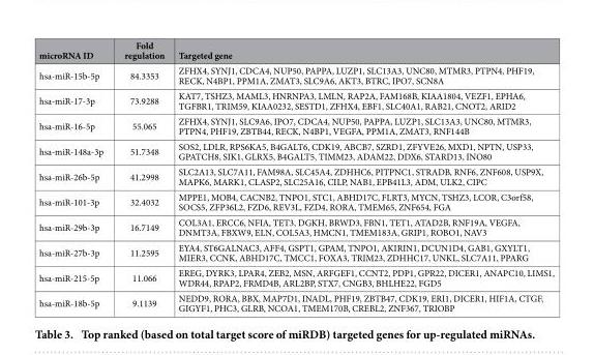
<table><thead><tr><td>microRNA ID</td><td>Fold regulation</td><td>Targeted gene</td></tr></thead><tbody><tr><td>hsa-miR-15b-5p</td><td>84.3353</td><td>ZFHX4, SYNJ1, CDCA4, NUP50, PAPPA, LUZP1, SLC13A3, UNC80, MTMR3, PTPN4, PHF19, RECK, N4BP1, PPM1A, ZMAT3, SLC9A6, AKT3, BTRC, IPO7, SCN8A</td></tr><tr><td>hsa-miR-17-3p</td><td>73.9288</td><td>KAT7, TSHZ3, MAML3, HNRNPA3, LMLN, RAP2A, FAM168B, KIAA1804, VEZF1, EPHA6, TGFBR1, TRIM59, KIAA0232, SESTD1, ZFHX4, EBF1, SLC40A1, RAB21, CNOT2, ARID2</td></tr><tr><td>hsa-miR-16-5p</td><td>55.065</td><td>ZFHX4, SYNJ1, SLC9A6, IPO7, CDCA4, NUP50, PAPPA, LUZP1, SLC13A3, UNC80, MTMR3, PTPN4, PHF19, ZBTB44, RECK, N4BP1, VEGFA, PPM1A, ZMAT3, RNF144B</td></tr><tr><td>hsa-miR-148a-3p</td><td>51.7348</td><td>SOS2, LDLR, RPS6KA5, B4GALT6, CDK19, ABCB7, SZRD1, ZFYVE26, MXD1, NPTN, USP33, GPATCH8, SIK1, GLRX5, B4GALT5, TIMM23, ADAM22, DDX6, STARD13, INO80</td></tr><tr><td>hsa-miR-26b-5p</td><td>41.2998</td><td>SLC2A13, SLC7A11, FAM98A, SLC45A4, ZDHHC6, PITPNC1, STRADB, RNF6, ZNF608, USP9X, MAPK6, MARK1, CLASP2, SLC25A16, CILP, NAB1, EPB41L3, ADM, ULK2, CIPC</td></tr><tr><td>hsa-miR-101-3p</td><td>32.4032</td><td>MPPE1, MOB4, CACNB2, TNPO1, STC1, ABHD17C, FLRT3, MYCN, TSHZ3, LCOR, C3orf58, SOCS5, ZFP36L2, FZD6, REV3L, FZD4, RORA, TMEM65, ZNF654, FGA</td></tr><tr><td>hsa-miR-29b-3p</td><td>16.7149</td><td>COL3A1, ERCC6, NFIA, TET3, DGKH, BRWD3, FBN1, TET1, ATAD2B, RNF19A, VEGFA, DNMT3A, FBXW9, ELN, COL5A3, HMCN1, TMEM183A, GRIP1, ROBO1, NAV3</td></tr><tr><td>hsa-miR-27b-3p</td><td>11.2595</td><td>EYA4, ST6GALNAC3, AFF4, GSPT1, GPAM, TNPO1, AKIRIN1, DCUN1D4, GAB1, GXYLT1, MIER3, CCNK, ABHD17C, TMCC1, FOXA3, TRIM23, ZDHHC17, UNKL, SLC7A11, PPARG</td></tr><tr><td>hsa-miR-215-5p</td><td>11.066</td><td>EREG, DYRK3, LPAR4, ZEB2, MSN, ARFGEF1, CCNT2, PDP1, GPR22, DICER1, ANAPC10, LIMS1, WDR44, RPAP2, FRMD4B, ARL2BP, STX7, CNGB3, BHLHE22, FGD5</td></tr><tr><td>hsa-miR-18b-5p</td><td>9.1139</td><td>NEDD9, RORA, BBX, MAP7D1, INADL, PHF19, ZBTB47, CDK19, ERI1, DICER1, HIF1A, CTGF, GIGYF1, PHC3, GLRB, NCOA1, TMEM170B, CREBL2, ZNF367, TRIOBP</td></tr></tbody></table>